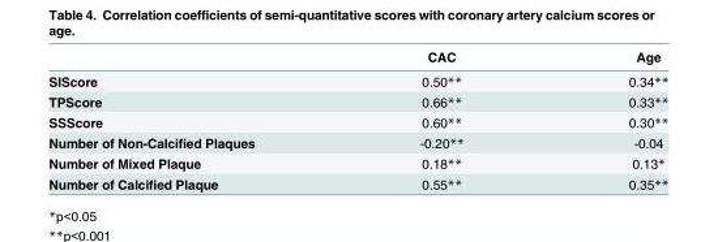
<table><thead><tr><td></td><td>CAC</td><td>Age</td></tr></thead><tbody><tr><td>SIScore</td><td>0.50**</td><td>0.34**</td></tr><tr><td>TPScore</td><td>0.66**</td><td>0.33**</td></tr><tr><td>SSScore</td><td>0.60**</td><td>0.30**</td></tr><tr><td>Number of Non-Calcified Plaques</td><td>-0.20**</td><td>-0.04</td></tr><tr><td>Number of Mixed Plaque</td><td>0.18**</td><td>0.13*</td></tr><tr><td>Number of Calcified Plaque</td><td>0.55**</td><td>0.35**</td></tr></tbody></table>